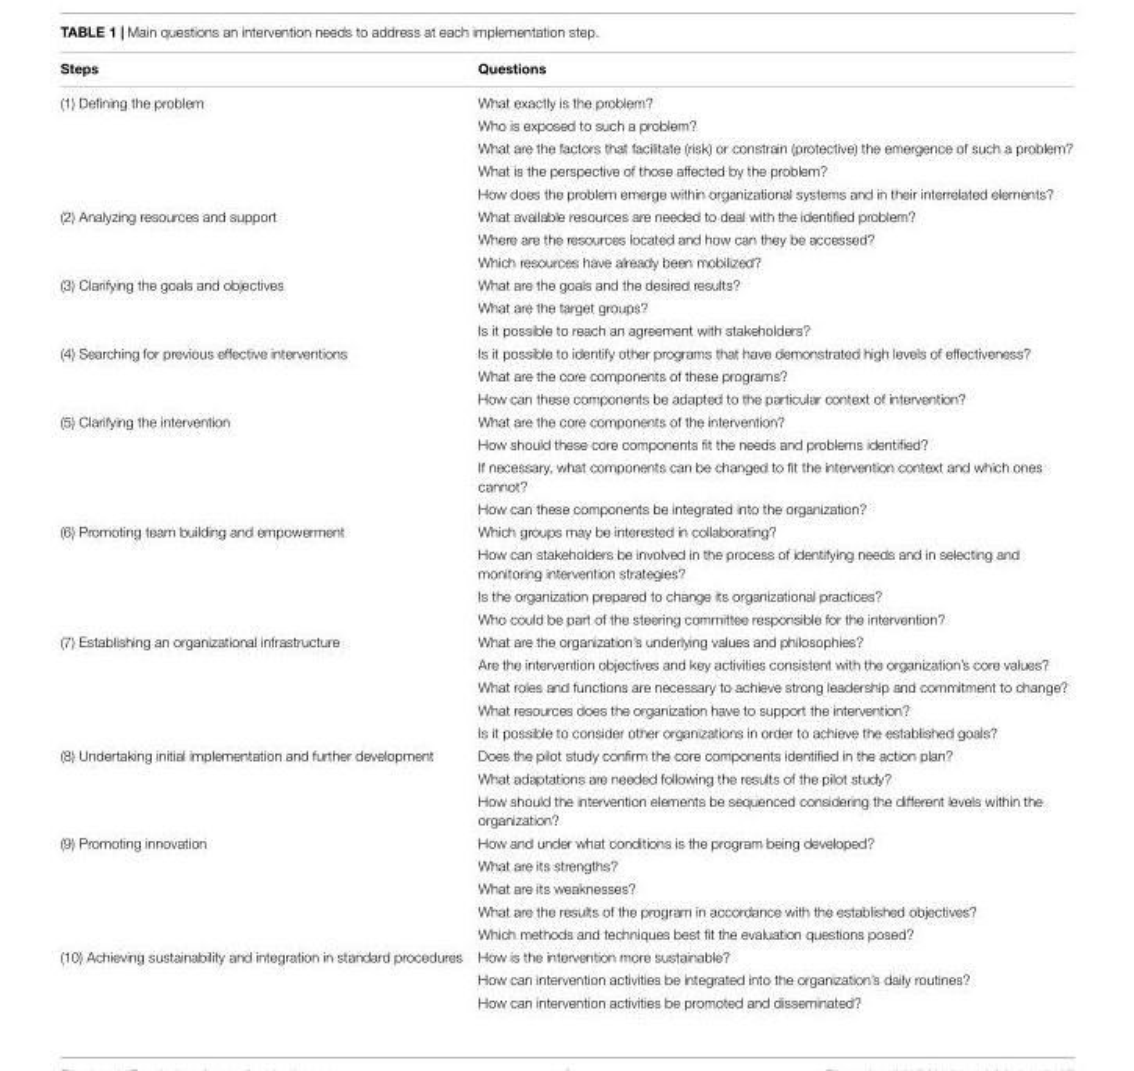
<table><thead><tr><td>Steps</td><td>Questions</td></tr></thead><tbody><tr><td rowspan="5">(1) Defining the problem</td><td>What exactly is the problem?</td></tr><tr><td>Who is exposed to such a problem?</td></tr><tr><td>What are the factors that facilitate (risk) or constrain (protective) the emergence of such a problem?</td></tr><tr><td>What is the perspective of those affected by the problem?</td></tr><tr><td>How does the problem emerge within organizational systems and in their interrelated elements?</td></tr><tr><td rowspan="3">(2) Analyzing resources and support</td><td>What available resources are needed to deal with the identified problem?</td></tr><tr><td>Where are the resources located and how can they be accessed?</td></tr><tr><td>Which resources have already been mobilized?</td></tr><tr><td rowspan="3">(3) Clarifying the goals and objectives</td><td>What are the goals and the desired results?</td></tr><tr><td>What are the target groups?</td></tr><tr><td>Is it possible to reach an agreement with stakeholders?</td></tr><tr><td rowspan="3">(4) Searching for previous effective interventions</td><td>Is it possible to identify other programs that have demonstrated high levels of effectiveness?</td></tr><tr><td>What are the core components of these programs?</td></tr><tr><td>How can these components be adapted to the particular context of intervention?</td></tr><tr><td rowspan="4">(5) Clarifying the intervention</td><td>What are the core components of the intervention?</td></tr><tr><td>How should these core components fit the needs and problems identified?</td></tr><tr><td>If necessary, what components can be changed to fit the intervention context and which ones cannot?</td></tr><tr><td>How can these components be integrated into the organization?</td></tr><tr><td rowspan="4">(6) Promoting team building and empowerment</td><td>Which groups may be interested in collaborating?</td></tr><tr><td>How can stakeholders be involved in the process of identifying needs and in selecting and monitoring intervention strategies?</td></tr><tr><td>Is the organization prepared to change its organizational practices?</td></tr><tr><td>Who could be part of the steering committee responsible for the intervention?</td></tr><tr><td rowspan="5">(7) Establishing an organizational infrastructure</td><td>What are the organization’s underlying values and philosophies?</td></tr><tr><td>Are the intervention objectives and key activities consistent with the organization’s core values?</td></tr><tr><td>What roles and functions are necessary to achieve strong leadership and commitment to change?</td></tr><tr><td>What resources does the organization have to support the intervention?</td></tr><tr><td>Is it possible to consider other organizations in order to achieve the established goals?</td></tr><tr><td rowspan="3">(8) Undertaking initial implementation and further development</td><td>Does the pilot study confirm the core components identified in the action plan?</td></tr><tr><td>What adaptations are needed following the results of the pilot study?</td></tr><tr><td>How should the intervention elements be sequenced considering the different levels within the organization?</td></tr><tr><td rowspan="5">(9) Promoting innovation</td><td>How and under what conditions is the program being developed?</td></tr><tr><td>What are its strengths?</td></tr><tr><td>What are its weaknesses?</td></tr><tr><td>What are the results of the program in accordance with the established objectives?</td></tr><tr><td>Which methods and techniques best fit the evaluation questions posed?</td></tr><tr><td rowspan="3">(10) Achieving sustainability and integration in standard procedures</td><td>How is the intervention more sustainable?</td></tr><tr><td>How can intervention activities be integrated into the organization’s daily routines?</td></tr><tr><td>How can intervention activities be promoted and disseminated?</td></tr></tbody></table>